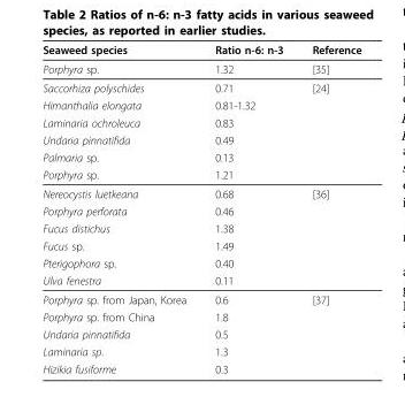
<table><thead><tr><td>Seaweed species</td><td>Ratio n-6: n-3</td><td>Reference</td></tr></thead><tbody><tr><td>Porphyra sp.</td><td>1.32</td><td>[35]</td></tr><tr><td>Saccorhiza polyschides</td><td>0.71</td><td>[24]</td></tr><tr><td>Himanthalia elongata</td><td>0.81-1.32</td><td></td></tr><tr><td>Laminaria ochroleuca</td><td>0.83</td><td></td></tr><tr><td>Undaria pinnatifida</td><td>0.49</td><td></td></tr><tr><td>Palmaria sp.</td><td>0.13</td><td></td></tr><tr><td>Porphyra sp.</td><td>1.21</td><td></td></tr><tr><td>Nereocystis luetkeana</td><td>0.68</td><td>[36]</td></tr><tr><td>Porphyra perforata</td><td>0.46</td><td></td></tr><tr><td>Fucus distichus</td><td>1.38</td><td></td></tr><tr><td>Fucus sp.</td><td>1.49</td><td></td></tr><tr><td>Pterigophora sp.</td><td>0.40</td><td></td></tr><tr><td>Ulva fenestra</td><td>0.11</td><td></td></tr><tr><td>Porphyra sp. from Japan, Korea</td><td>0.6</td><td>[37]</td></tr><tr><td>Porphyra sp. from China</td><td>1.8</td><td></td></tr><tr><td>Undaria pinnatifida</td><td>0.5</td><td></td></tr><tr><td>Laminaria sp.</td><td>1.3</td><td></td></tr><tr><td>Hizikia fusiforme</td><td>0.3</td><td></td></tr></tbody></table>